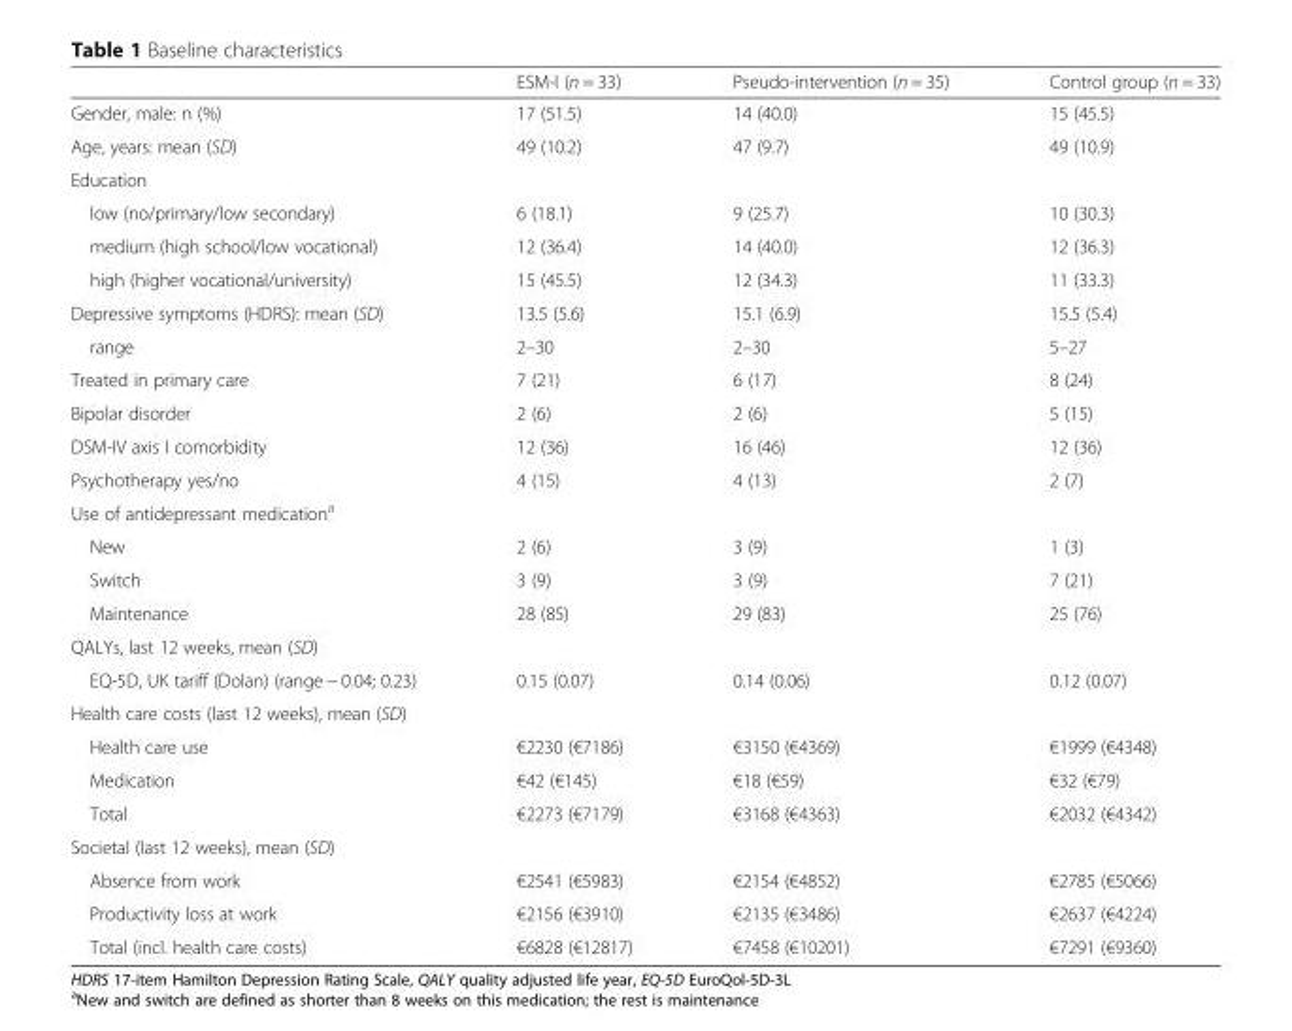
<table><thead><tr><td></td><td>ESM-I (n = 33)</td><td>Pseudo-intervention (n = 35)</td><td>Control group (n = 33)</td></tr></thead><tbody><tr><td>Gender, male: n (%)</td><td>17 (51.5)</td><td>14 (40.0)</td><td>15 (45.5)</td></tr><tr><td>Age, years: mean (SD)</td><td>49 (10.2)</td><td>47 (9.7)</td><td>49 (10.9)</td></tr><tr><td colspan="4">Education</td></tr><tr><td>low (no/primary/low secondary)</td><td>6 (18.1)</td><td>9 (25.7)</td><td>10 (30.3)</td></tr><tr><td>medium (high school/low vocational)</td><td>12 (36.4)</td><td>14 (40.0)</td><td>12 (36.3)</td></tr><tr><td>high (higher vocational/university)</td><td>15 (45.5)</td><td>12 (34.3)</td><td>11 (33.3)</td></tr><tr><td>Depressive symptoms (HDRS): mean (SD)</td><td>13.5 (5.6)</td><td>15.1 (6.9)</td><td>15.5 (5.4)</td></tr><tr><td>range</td><td>2–30</td><td>2–30</td><td>5–27</td></tr><tr><td>Treated in primary care</td><td>7 (21)</td><td>6 (17)</td><td>8 (24)</td></tr><tr><td>Bipolar disorder</td><td>2 (6)</td><td>2 (6)</td><td>5 (15)</td></tr><tr><td>DSM-IV axis I comorbidity</td><td>12 (36)</td><td>16 (46)</td><td>12 (36)</td></tr><tr><td>Psychotherapy yes/no</td><td>4 (15)</td><td>4 (13)</td><td>2 (7)</td></tr><tr><td colspan="4">Use of antidepressant medication<sup>a</sup></td></tr><tr><td>New</td><td>2 (6)</td><td>3 (9)</td><td>1 (3)</td></tr><tr><td>Switch</td><td>3 (9)</td><td>3 (9)</td><td>7 (21)</td></tr><tr><td>Maintenance</td><td>28 (85)</td><td>29 (83)</td><td>25 (76)</td></tr><tr><td colspan="4">QALYs, last 12 weeks, mean (SD)</td></tr><tr><td>EQ-5D, UK tariff (Dolan) (range − 0.04; 0.23)</td><td>0.15 (0.07)</td><td>0.14 (0.06)</td><td>0.12 (0.07)</td></tr><tr><td colspan="4">Health care costs (last 12 weeks), mean (SD)</td></tr><tr><td>Health care use</td><td>€2230 (€7186)</td><td>€3150 (€4369)</td><td>€1999 (€4348)</td></tr><tr><td>Medication</td><td>€42 (€145)</td><td>€18 (€59)</td><td>€32 (€79)</td></tr><tr><td>Total</td><td>€2273 (€7179)</td><td>€3168 (€4363)</td><td>€2032 (€4342)</td></tr><tr><td colspan="4">Societal (last 12 weeks), mean (SD)</td></tr><tr><td>Absence from work</td><td>€2541 (€5983)</td><td>€2154 (€4852)</td><td>€2785 (€5066)</td></tr><tr><td>Productivity loss at work</td><td>€2156 (€3910)</td><td>€2135 (€3486)</td><td>€2637 (€4224)</td></tr><tr><td>Total (incl. health care costs)</td><td>€6828 (€12817)</td><td>€7458 (€10201)</td><td>€7291 (€9360)</td></tr></tbody></table>